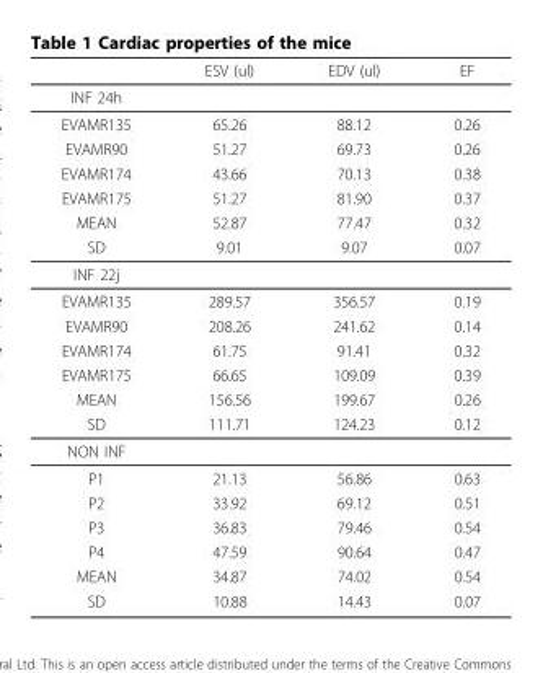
<table><thead><tr><td></td><td>ESV (ul)</td><td>EDV (ul)</td><td>EF</td></tr></thead><tbody><tr><td colspan="4">INF 24h</td></tr><tr><td>EVAMR135</td><td>65.26</td><td>88.12</td><td>0.26</td></tr><tr><td>EVAMR90</td><td>51.27</td><td>69.73</td><td>0.26</td></tr><tr><td>EVAMR174</td><td>43.66</td><td>70.13</td><td>0.38</td></tr><tr><td>EVAMR175</td><td>51.27</td><td>81.90</td><td>0.37</td></tr><tr><td>MEAN</td><td>52.87</td><td>77.47</td><td>0.32</td></tr><tr><td>SD</td><td>9.01</td><td>9.07</td><td>0.07</td></tr><tr><td colspan="4">INF 22j</td></tr><tr><td>EVAMR135</td><td>289.57</td><td>356.57</td><td>0.19</td></tr><tr><td>EVAMR90</td><td>208.26</td><td>241.62</td><td>0.14</td></tr><tr><td>EVAMR174</td><td>61.75</td><td>91.41</td><td>0.32</td></tr><tr><td>EVAMR175</td><td>66.65</td><td>109.09</td><td>0.39</td></tr><tr><td>MEAN</td><td>156.56</td><td>199.67</td><td>0.26</td></tr><tr><td>SD</td><td>111.71</td><td>124.23</td><td>0.12</td></tr><tr><td colspan="4">NON INF</td></tr><tr><td>P1</td><td>21.13</td><td>56.86</td><td>0.63</td></tr><tr><td>P2</td><td>33.92</td><td>69.12</td><td>0.51</td></tr><tr><td>P3</td><td>36.83</td><td>79.46</td><td>0.54</td></tr><tr><td>P4</td><td>47.59</td><td>90.64</td><td>0.47</td></tr><tr><td>MEAN</td><td>34.87</td><td>74.02</td><td>0.54</td></tr><tr><td>SD</td><td>10.88</td><td>14.43</td><td>0.07</td></tr></tbody></table>